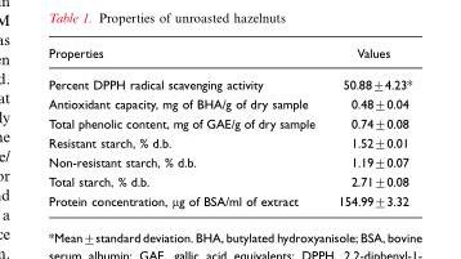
<table><thead><tr><td>Properties</td><td>Values</td></tr></thead><tbody><tr><td>Percent DPPH radical scavenging activity</td><td>50.88±4.23*</td></tr><tr><td>Antioxidant capacity, mg of BHA/g of dry sample</td><td>0.48±0.04</td></tr><tr><td>Total phenolic content, mg of GAE/g of dry sample</td><td>0.74±0.08</td></tr><tr><td>Resistant starch, % d.b.</td><td>1.52±0.01</td></tr><tr><td>Non-resistant starch, % d.b.</td><td>1.19±0.07</td></tr><tr><td>Total starch, % d.b.</td><td>2.71±0.08</td></tr><tr><td>Protein concentration, µg of BSA/ml of extract</td><td>154.99±3.32</td></tr></tbody></table>